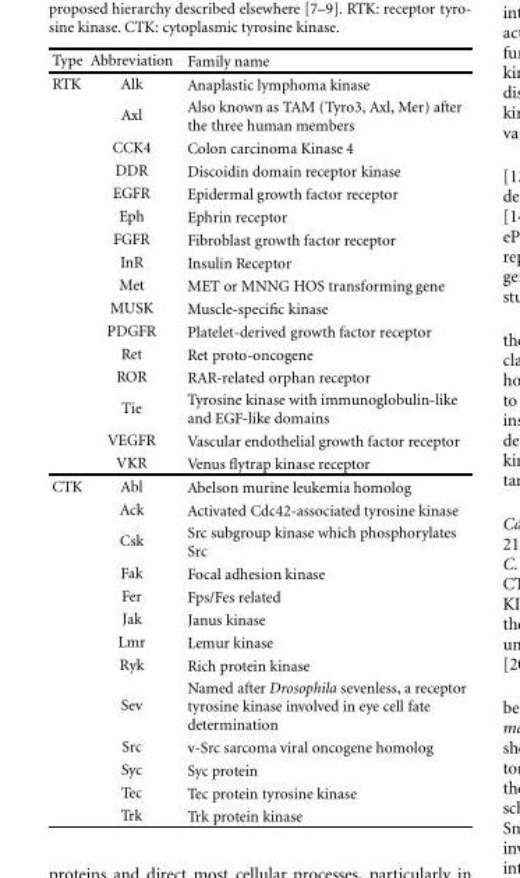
<table><thead><tr><td>Type</td><td>Abbreviation</td><td>Family name</td></tr></thead><tbody><tr><td rowspan="16">RTK</td><td>Alk</td><td>Anaplastic lymphoma kinase</td></tr><tr><td>Axl</td><td>Also known as TAM (Tyro3, Axl, Mer) after the three human members</td></tr><tr><td>CCK4</td><td>Colon carcinoma Kinase 4</td></tr><tr><td>DDR</td><td>Discoidin domain receptor kinase</td></tr><tr><td>EGFR</td><td>Epidermal growth factor receptor</td></tr><tr><td>Eph</td><td>Ephrin receptor</td></tr><tr><td>FGFR</td><td>Fibroblast growth factor receptor</td></tr><tr><td>InR</td><td>Insulin Receptor</td></tr><tr><td>Met</td><td>MET or MNNG HOS transforming gene</td></tr><tr><td>MUSK</td><td>Muscle-specific kinase</td></tr><tr><td>PDGFR</td><td>Platelet-derived growth factor receptor</td></tr><tr><td>Ret</td><td>Ret proto-oncogene</td></tr><tr><td>ROR</td><td>RAR-related orphan receptor</td></tr><tr><td>Tie</td><td>Tyrosine kinase with immunoglobulin-like and EGF-like domains</td></tr><tr><td>VEGFR</td><td>Vascular endothelial growth factor receptor</td></tr><tr><td>VKR</td><td>Venus flytrap kinase receptor</td></tr><tr><td rowspan="13">CTK</td><td>Abl</td><td>Abelson murine leukemia homolog</td></tr><tr><td>Ack</td><td>Activated Cdc42-associated tyrosine kinase</td></tr><tr><td>Csk</td><td>Src subgroup kinase which phosphorylates Src</td></tr><tr><td>Fak</td><td>Focal adhesion kinase</td></tr><tr><td>Fer</td><td>Fps/Fes related</td></tr><tr><td>Jak</td><td>Janus kinase</td></tr><tr><td>Lmr</td><td>Lemur kinase</td></tr><tr><td>Ryk</td><td>Rich protein kinase</td></tr><tr><td>Sev</td><td>Named after Drosophila sevenless, a receptor tyrosine kinase involved in eye cell fate determination</td></tr><tr><td>Src</td><td>v-Src sarcoma viral oncogene homolog</td></tr><tr><td>Syc</td><td>Syc protein</td></tr><tr><td>Tec</td><td>Tec protein tyrosine kinase</td></tr><tr><td>Trk</td><td>Trk protein kinase</td></tr></tbody></table>